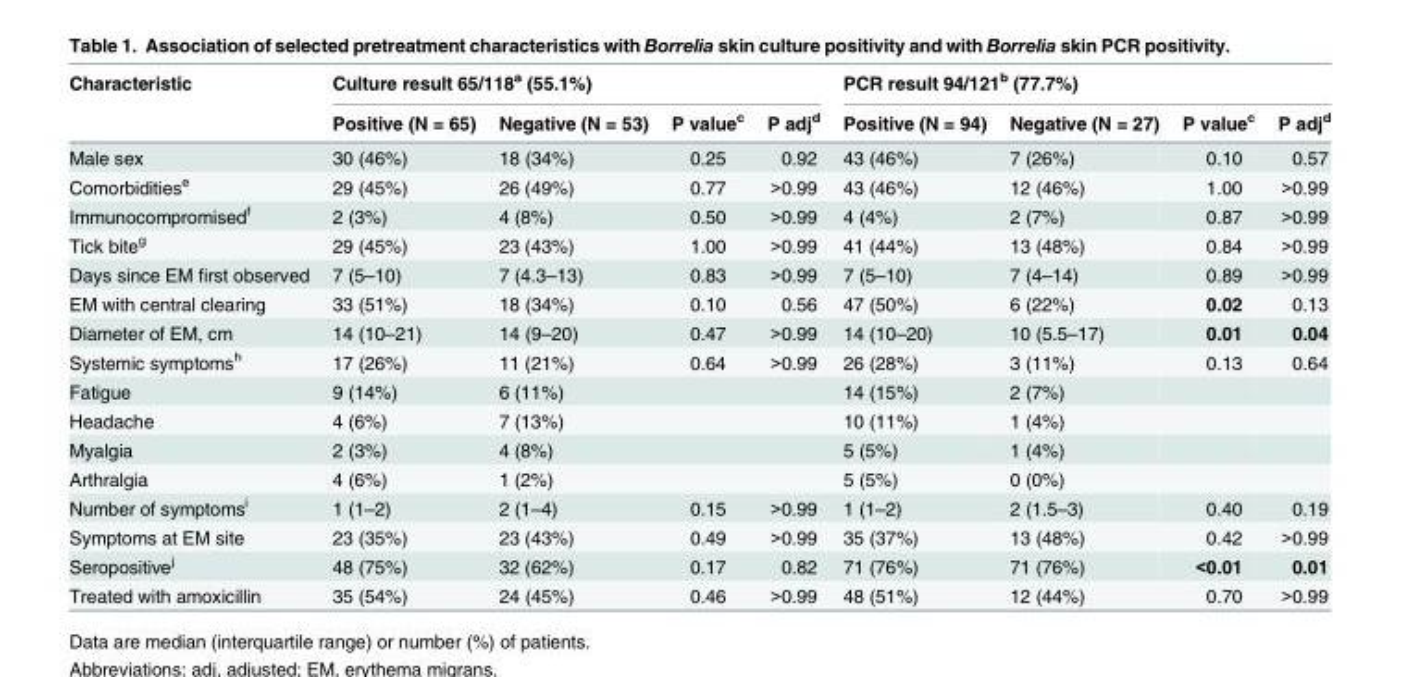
<table><thead><tr><td rowspan="2">Characteristic</td><td colspan="4">Culture result 65/118<sup>a</sup> (55.1%)</td><td colspan="4">PCR result 94/121<sup>b</sup> (77.7%)</td></tr><tr><td>Positive (N = 65)</td><td>Negative (N = 53)</td><td>P value<sup>c</sup></td><td>P adj<sup>d</sup></td><td>Positive (N = 94)</td><td>Negative (N = 27)</td><td>P value<sup>c</sup></td><td>P adj<sup>d</sup></td></tr></thead><tbody><tr><td>Male sex</td><td>30 (46%)</td><td>18 (34%)</td><td>0.25</td><td>0.92</td><td>43 (46%)</td><td>7 (26%)</td><td>0.10</td><td>0.57</td></tr><tr><td>Comorbidities<sup>e</sup></td><td>29 (45%)</td><td>26 (49%)</td><td>0.77</td><td>&gt;0.99</td><td>43 (46%)</td><td>12 (46%)</td><td>1.00</td><td>&gt;0.99</td></tr><tr><td>Immunocompromised<sup>f</sup></td><td>2 (3%)</td><td>4 (8%)</td><td>0.50</td><td>&gt;0.99</td><td>4 (4%)</td><td>2 (7%)</td><td>0.87</td><td>&gt;0.99</td></tr><tr><td>Tick bite<sup>g</sup></td><td>29 (45%)</td><td>23 (43%)</td><td>1.00</td><td>&gt;0.99</td><td>41 (44%)</td><td>13 (48%)</td><td>0.84</td><td>&gt;0.99</td></tr><tr><td>Days since EM first observed</td><td>7 (5–10)</td><td>7 (4.3–13)</td><td>0.83</td><td>&gt;0.99</td><td>7 (5–10)</td><td>7 (4–14)</td><td>0.89</td><td>&gt;0.99</td></tr><tr><td>EM with central clearing</td><td>33 (51%)</td><td>18 (34%)</td><td>0.10</td><td>0.56</td><td>47 (50%)</td><td>6 (22%)</td><td>0.02</td><td>0.13</td></tr><tr><td>Diameter of EM, cm</td><td>14 (10–21)</td><td>14 (9–20)</td><td>0.47</td><td>&gt;0.99</td><td>14 (10–20)</td><td>10 (5.5–17)</td><td>0.01</td><td>0.04</td></tr><tr><td>Systemic symptoms<sup>h</sup></td><td>17 (26%)</td><td>11 (21%)</td><td>0.64</td><td>&gt;0.99</td><td>26 (28%)</td><td>3 (11%)</td><td>0.13</td><td>0.64</td></tr><tr><td>Fatigue</td><td>9 (14%)</td><td>6 (11%)</td><td></td><td></td><td>14 (15%)</td><td>2 (7%)</td><td></td><td></td></tr><tr><td>Headache</td><td>4 (6%)</td><td>7 (13%)</td><td></td><td></td><td>10 (11%)</td><td>1 (4%)</td><td></td><td></td></tr><tr><td>Myalgia</td><td>2 (3%)</td><td>4 (8%)</td><td></td><td></td><td>5 (5%)</td><td>1 (4%)</td><td></td><td></td></tr><tr><td>Arthralgia</td><td>4 (6%)</td><td>1 (2%)</td><td></td><td></td><td>5 (5%)</td><td>0 (0%)</td><td></td><td></td></tr><tr><td>Number of symptoms<sup>i</sup></td><td>1 (1–2)</td><td>2 (1–4)</td><td>0.15</td><td>&gt;0.99</td><td>1 (1–2)</td><td>2 (1.5–3)</td><td>0.40</td><td>0.19</td></tr><tr><td>Symptoms at EM site</td><td>23 (35%)</td><td>23 (43%)</td><td>0.49</td><td>&gt;0.99</td><td>35 (37%)</td><td>13 (48%)</td><td>0.42</td><td>&gt;0.99</td></tr><tr><td>Seropositive<sup>j</sup></td><td>48 (75%)</td><td>32 (62%)</td><td>0.17</td><td>0.82</td><td>71 (76%)</td><td>71 (76%)</td><td>&lt;0.01</td><td>0.01</td></tr><tr><td>Treated with amoxicillin</td><td>35 (54%)</td><td>24 (45%)</td><td>0.46</td><td>&gt;0.99</td><td>48 (51%)</td><td>12 (44%)</td><td>0.70</td><td>&gt;0.99</td></tr></tbody></table>